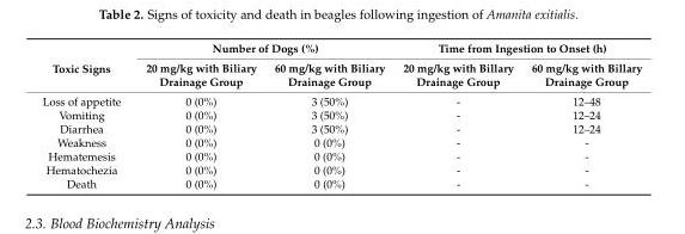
<table><thead><tr><td rowspan="2">Toxic Signs</td><td colspan="2">Number of Dogs (%)</td><td colspan="2">Time from Ingestion to Onset (h)</td></tr><tr><td>20 mg/kg with Biliary Drainage Group</td><td>60 mg/kg with Biliary Drainage Group</td><td>20 mg/kg with Billary Drainage Group</td><td>60 mg/kg with Billary Drainage Group</td></tr></thead><tbody><tr><td>Loss of appetite</td><td>0 (0%)</td><td>3 (50%)</td><td>-</td><td>12–48</td></tr><tr><td>Vomiting</td><td>0 (0%)</td><td>3 (50%)</td><td>-</td><td>12–24</td></tr><tr><td>Diarrhea</td><td>0 (0%)</td><td>3 (50%)</td><td>-</td><td>12–24</td></tr><tr><td>Weakness</td><td>0 (0%)</td><td>0 (0%)</td><td>-</td><td>-</td></tr><tr><td>Hematemesis</td><td>0 (0%)</td><td>0 (0%)</td><td>-</td><td>-</td></tr><tr><td>Hematochezia</td><td>0 (0%)</td><td>0 (0%)</td><td>-</td><td>-</td></tr><tr><td>Death</td><td>0 (0%)</td><td>0 (0%)</td><td>-</td><td>-</td></tr></tbody></table>